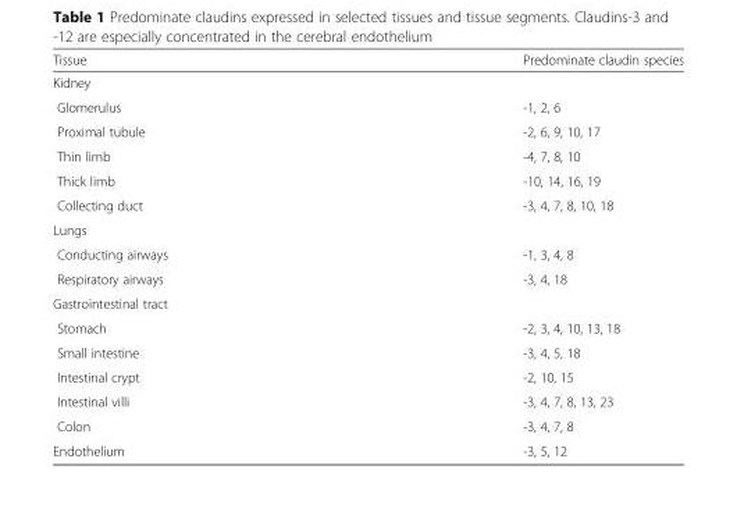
<table><thead><tr><td>Tissue</td><td>Predominate claudin species</td></tr></thead><tbody><tr><td colspan="2">Kidney</td></tr><tr><td>Glomerulus</td><td>-1, 2, 6</td></tr><tr><td>Proximal tubule</td><td>-2, 6, 9, 10, 17</td></tr><tr><td>Thin limb</td><td>-4, 7, 8, 10</td></tr><tr><td>Thick limb</td><td>-10, 14, 16, 19</td></tr><tr><td>Collecting duct</td><td>-3, 4, 7, 8, 10, 18</td></tr><tr><td colspan="2">Lungs</td></tr><tr><td>Conducting airways</td><td>-1, 3, 4, 8</td></tr><tr><td>Respiratory airways</td><td>-3, 4, 18</td></tr><tr><td colspan="2">Gastrointestinal tract</td></tr><tr><td>Stomach</td><td>-2, 3, 4, 10, 13, 18</td></tr><tr><td>Small intestine</td><td>-3, 4, 5, 18</td></tr><tr><td>Intestinal crypt</td><td>-2, 10, 15</td></tr><tr><td>Intestinal villi</td><td>-3, 4, 7, 8, 13, 23</td></tr><tr><td>Colon</td><td>-3, 4, 7, 8</td></tr><tr><td>Endothelium</td><td>-3, 5, 12</td></tr></tbody></table>